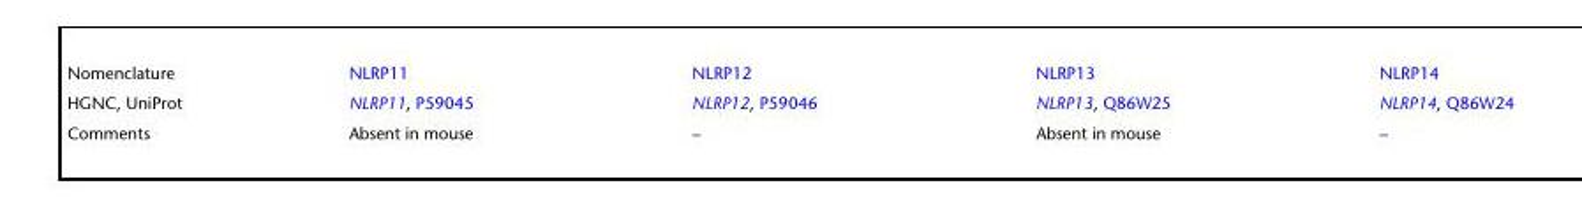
<table><tbody><tr><td>Nomenclature</td><td>NLRP11</td><td>NLRP12</td><td>NLRP13</td><td>NLRP14</td></tr><tr><td>HGNC, UniProt</td><td>NLRP11, P59045</td><td>NLRP12, P59046</td><td>NLRP13, Q86W25</td><td>NLRP14, Q86W24</td></tr><tr><td>Comments</td><td>Absent in mouse</td><td>–</td><td>Absent in mouse</td><td>–</td></tr></tbody></table>